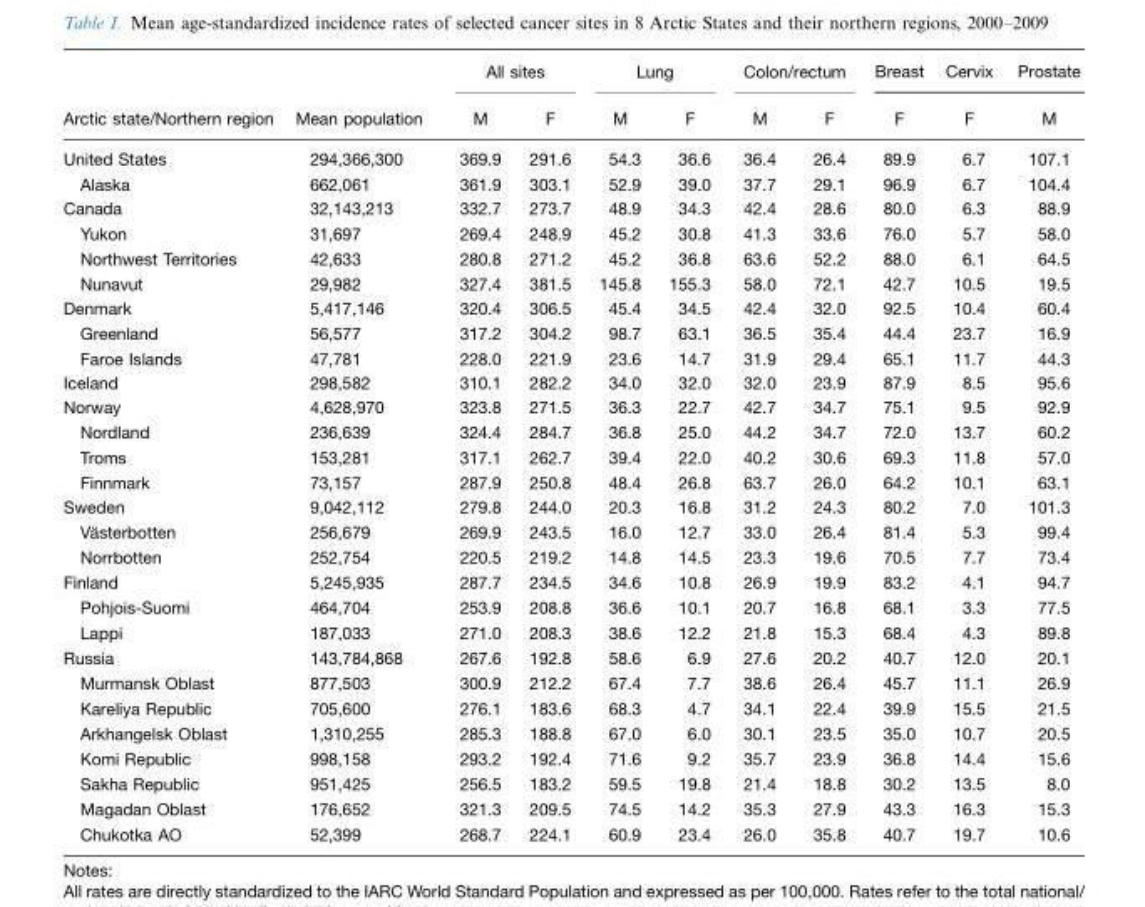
<table><thead><tr><td rowspan="2">Arctic state/Northern region</td><td rowspan="2">Mean population</td><td colspan="2">All sites</td><td colspan="2">Lung</td><td colspan="2">Colon/rectum</td><td rowspan="2">Breast F</td><td rowspan="2">Cervix F</td><td rowspan="2">Prostate M</td></tr><tr><td>M</td><td>F</td><td>M</td><td>F</td><td>M</td><td>F</td></tr></thead><tbody><tr><td>United States</td><td>294,366,300</td><td>369.9</td><td>291.6</td><td>54.3</td><td>36.6</td><td>36.4</td><td>26.4</td><td>89.9</td><td>6.7</td><td>107.1</td></tr><tr><td>Alaska</td><td>662,061</td><td>361.9</td><td>303.1</td><td>52.9</td><td>39.0</td><td>37.7</td><td>29.1</td><td>96.9</td><td>6.7</td><td>104.4</td></tr><tr><td>Canada</td><td>32,143,213</td><td>332.7</td><td>273.7</td><td>48.9</td><td>34.3</td><td>42.4</td><td>28.6</td><td>80.0</td><td>6.3</td><td>88.9</td></tr><tr><td>Yukon</td><td>31,697</td><td>269.4</td><td>248.9</td><td>45.2</td><td>30.8</td><td>41.3</td><td>33.6</td><td>76.0</td><td>5.7</td><td>58.0</td></tr><tr><td>Northwest Territories</td><td>42,633</td><td>280.8</td><td>271.2</td><td>45.2</td><td>36.8</td><td>63.6</td><td>52.2</td><td>88.0</td><td>6.1</td><td>64.5</td></tr><tr><td>Nunavut</td><td>29,982</td><td>327.4</td><td>381.5</td><td>145.8</td><td>155.3</td><td>58.0</td><td>72.1</td><td>42.7</td><td>10.5</td><td>19.5</td></tr><tr><td>Denmark</td><td>5,417,146</td><td>320.4</td><td>306.5</td><td>45.4</td><td>34.5</td><td>42.4</td><td>32.0</td><td>92.5</td><td>10.4</td><td>60.4</td></tr><tr><td>Greenland</td><td>56,577</td><td>317.2</td><td>304.2</td><td>98.7</td><td>63.1</td><td>36.5</td><td>35.4</td><td>44.4</td><td>23.7</td><td>16.9</td></tr><tr><td>Faroe Islands</td><td>47,781</td><td>228.0</td><td>221.9</td><td>23.6</td><td>14.7</td><td>31.9</td><td>29.4</td><td>65.1</td><td>11.7</td><td>44.3</td></tr><tr><td>Iceland</td><td>298,582</td><td>310.1</td><td>282.2</td><td>34.0</td><td>32.0</td><td>32.0</td><td>23.9</td><td>87.9</td><td>8.5</td><td>95.6</td></tr><tr><td>Norway</td><td>4,628,970</td><td>323.8</td><td>271.5</td><td>36.3</td><td>22.7</td><td>42.7</td><td>34.7</td><td>75.1</td><td>9.5</td><td>92.9</td></tr><tr><td>Nordland</td><td>236,639</td><td>324.4</td><td>284.7</td><td>36.8</td><td>25.0</td><td>44.2</td><td>34.7</td><td>72.0</td><td>13.7</td><td>60.2</td></tr><tr><td>Troms</td><td>153,281</td><td>317.1</td><td>262.7</td><td>39.4</td><td>22.0</td><td>40.2</td><td>30.6</td><td>69.3</td><td>11.8</td><td>57.0</td></tr><tr><td>Finnmark</td><td>73,157</td><td>287.9</td><td>250.8</td><td>48.4</td><td>26.8</td><td>63.7</td><td>26.0</td><td>64.2</td><td>10.1</td><td>63.1</td></tr><tr><td>Sweden</td><td>9,042,112</td><td>279.8</td><td>244.0</td><td>20.3</td><td>16.8</td><td>31.2</td><td>24.3</td><td>80.2</td><td>7.0</td><td>101.3</td></tr><tr><td>Va¨ sterbotten</td><td>256,679</td><td>269.9</td><td>243.5</td><td>16.0</td><td>12.7</td><td>33.0</td><td>26.4</td><td>81.4</td><td>5.3</td><td>99.4</td></tr><tr><td>Norrbotten</td><td>252,754</td><td>220.5</td><td>219.2</td><td>14.8</td><td>14.5</td><td>23.3</td><td>19.6</td><td>70.5</td><td>7.7</td><td>73.4</td></tr><tr><td>Finland</td><td>5,245,935</td><td>287.7</td><td>234.5</td><td>34.6</td><td>10.8</td><td>26.9</td><td>19.9</td><td>83.2</td><td>4.1</td><td>94.7</td></tr><tr><td>Pohjois-Suomi</td><td>464,704</td><td>253.9</td><td>208.8</td><td>36.6</td><td>10.1</td><td>20.7</td><td>16.8</td><td>68.1</td><td>3.3</td><td>77.5</td></tr><tr><td>Lappi</td><td>187,033</td><td>271.0</td><td>208.3</td><td>38.6</td><td>12.2</td><td>21.8</td><td>15.3</td><td>68.4</td><td>4.3</td><td>89.8</td></tr><tr><td>Russia</td><td>143,784,868</td><td>267.6</td><td>192.8</td><td>58.6</td><td>6.9</td><td>27.6</td><td>20.2</td><td>40.7</td><td>12.0</td><td>20.1</td></tr><tr><td>Murmansk Oblast</td><td>877,503</td><td>300.9</td><td>212.2</td><td>67.4</td><td>7.7</td><td>38.6</td><td>26.4</td><td>45.7</td><td>11.1</td><td>26.9</td></tr><tr><td>Kareliya Republic</td><td>705,600</td><td>276.1</td><td>183.6</td><td>68.3</td><td>4.7</td><td>34.1</td><td>22.4</td><td>39.9</td><td>15.5</td><td>21.5</td></tr><tr><td>Arkhangelsk Oblast</td><td>1,310,255</td><td>285.3</td><td>188.8</td><td>67.0</td><td>6.0</td><td>30.1</td><td>23.5</td><td>35.0</td><td>10.7</td><td>20.5</td></tr><tr><td>Komi Republic</td><td>998,158</td><td>293.2</td><td>192.4</td><td>71.6</td><td>9.2</td><td>35.7</td><td>23.9</td><td>36.8</td><td>14.4</td><td>15.6</td></tr><tr><td>Sakha Republic</td><td>951,425</td><td>256.5</td><td>183.2</td><td>59.5</td><td>19.8</td><td>21.4</td><td>18.8</td><td>30.2</td><td>13.5</td><td>8.0</td></tr><tr><td>Magadan Oblast</td><td>176,652</td><td>321.3</td><td>209.5</td><td>74.5</td><td>14.2</td><td>35.3</td><td>27.9</td><td>43.3</td><td>16.3</td><td>15.3</td></tr><tr><td>Chukotka AO</td><td>52,399</td><td>268.7</td><td>224.1</td><td>60.9</td><td>23.4</td><td>26.0</td><td>35.8</td><td>40.7</td><td>19.7</td><td>10.6</td></tr></tbody></table>